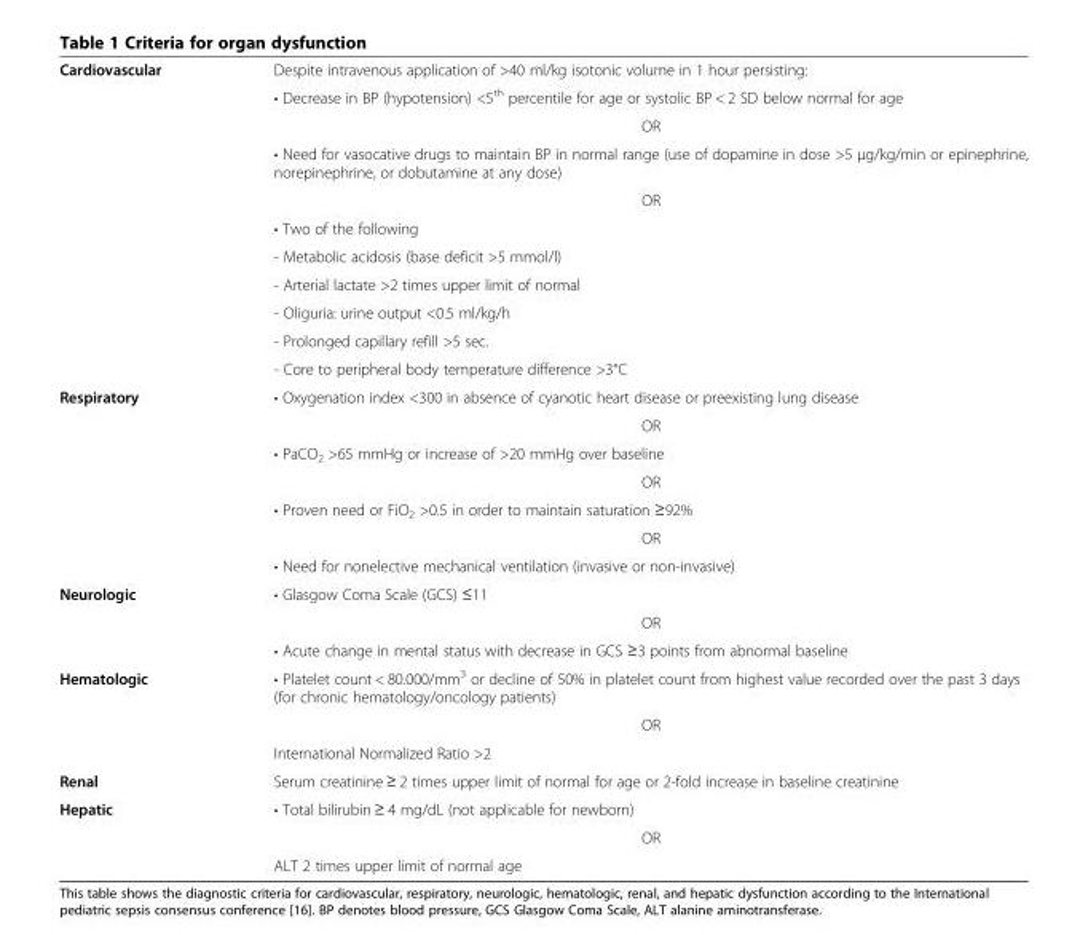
<table><tbody><tr><td rowspan="11">Cardiovascular</td><td>Despite intravenous application of &gt;40 ml/kg isotonic volume in 1 hour persisting:</td></tr><tr><td>• Decrease in BP (hypotension) &lt;5th percentile for age or systolic BP &lt; 2 SD below normal for age</td></tr><tr><td>OR</td></tr><tr><td>• Need for vasocative drugs to maintain BP in normal range (use of dopamine in dose &gt;5 μg/kg/min or epinephrine, norepinephrine, or dobutamine at any dose)</td></tr><tr><td>OR</td></tr><tr><td>• Two of the following</td></tr><tr><td>- Metabolic acidosis (base deficit &gt;5 mmol/l)</td></tr><tr><td>- Arterial lactate &gt;2 times upper limit of normal</td></tr><tr><td>- Oliguria: urine output &lt;0.5 ml/kg/h</td></tr><tr><td>- Prolonged capillary refill &gt;5 sec.</td></tr><tr><td>- Core to peripheral body temperature difference &gt;3°C</td></tr><tr><td rowspan="7">Respiratory</td><td>• Oxygenation index &lt;300 in absence of cyanotic heart disease or preexisting lung disease</td></tr><tr><td>OR</td></tr><tr><td>• PaCO2 &gt;65 mmHg or increase of &gt;20 mmHg over baseline</td></tr><tr><td>OR</td></tr><tr><td>• Proven need or FiO2 &gt;0.5 in order to maintain saturation ≥92%</td></tr><tr><td>OR</td></tr><tr><td>• Need for nonelective mechanical ventilation (invasive or non-invasive)</td></tr><tr><td rowspan="3">Neurologic</td><td>• Glasgow Coma Scale (GCS) ≤11</td></tr><tr><td>OR</td></tr><tr><td>• Acute change in mental status with decrease in GCS ≥3 points from abnormal baseline</td></tr><tr><td rowspan="3">Hematologic</td><td>• Platelet count &lt; 80.000/mm3 or decline of 50% in platelet count from highest value recorded over the past 3 days (for chronic hematology/oncology patients)</td></tr><tr><td>OR</td></tr><tr><td>International Normalized Ratio &gt;2</td></tr><tr><td>Renal</td><td>Serum creatinine ≥ 2 times upper limit of normal for age or 2-fold increase in baseline creatinine</td></tr><tr><td rowspan="3">Hepatic</td><td>• Total bilirubin ≥ 4 mg/dL (not applicable for newborn)</td></tr><tr><td>OR</td></tr><tr><td>ALT 2 times upper limit of normal age</td></tr></tbody></table>